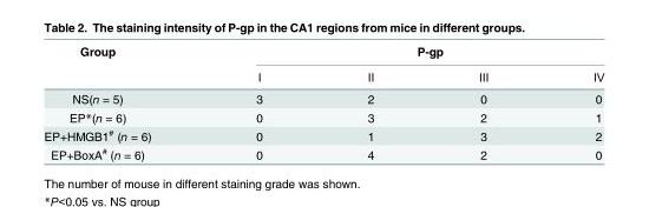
<table><thead><tr><td rowspan="2">Group</td><td colspan="4">P-gp</td></tr><tr><td>Ⅰ</td><td>Ⅱ</td><td>Ⅲ</td><td>Ⅳ</td></tr></thead><tbody><tr><td>NS(n = 5)</td><td>3</td><td>2</td><td>0</td><td>0</td></tr><tr><td>EP*(n = 6)</td><td>0</td><td>3</td><td>2</td><td>1</td></tr><tr><td>EP+HMGB1<sup>#</sup> (n = 6)</td><td>0</td><td>1</td><td>3</td><td>2</td></tr><tr><td>EP+BoxA<sup>#</sup> (n = 6)</td><td>0</td><td>4</td><td>2</td><td>0</td></tr></tbody></table>